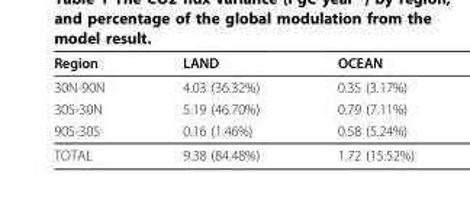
<table><thead><tr><td>Region</td><td>LAND</td><td>OCEAN</td></tr></thead><tbody><tr><td>30N-90N</td><td>4.03 (36.32%)</td><td>0.35 (3.17%)</td></tr><tr><td>30S-30N</td><td>5.19 (46.70%)</td><td>0.79 (7.11%)</td></tr><tr><td>90S-30S</td><td>0.16 (1.46%)</td><td>0.58 (5.24%)</td></tr><tr><td>TOTAL</td><td>9.38 (84.48%)</td><td>1.72 (15.52%)</td></tr></tbody></table>